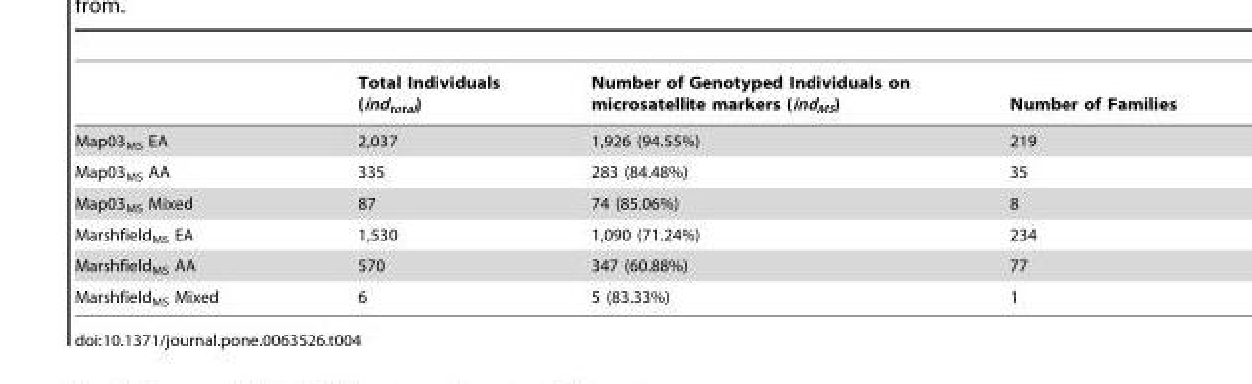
<table><thead><tr><td></td><td>Total Individuals (ind<sub>total</sub>)</td><td>Number of Genotyped Individuals on microsatellite markers (ind<sub>MS</sub>)</td><td>Number of Families</td></tr></thead><tbody><tr><td>Map03<sub>MS</sub> EA</td><td>2,037</td><td>1,926 (94.55%)</td><td>219</td></tr><tr><td>Map03<sub>MS</sub> AA</td><td>335</td><td>283 (84.48%)</td><td>35</td></tr><tr><td>Map03<sub>MS</sub> Mixed</td><td>87</td><td>74 (85.06%)</td><td>8</td></tr><tr><td>Marshfield<sub>MS</sub> EA</td><td>1,530</td><td>1,090 (71.24%)</td><td>234</td></tr><tr><td>Marshfield<sub>MS</sub> AA</td><td>570</td><td>347 (60.88%)</td><td>77</td></tr><tr><td>Marshfield<sub>MS</sub> Mixed</td><td>6</td><td>5 (83.33%)</td><td>1</td></tr></tbody></table>